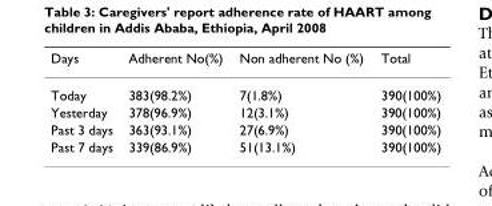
<table><thead><tr><td>Days</td><td>Adherent No(%)</td><td>Non adherent No (%)</td><td>Total</td></tr></thead><tbody><tr><td>Today</td><td>383(98.2%)</td><td>7(1.8%)</td><td>390(100%)</td></tr><tr><td>Yesterday</td><td>378(96.9%)</td><td>12(3.1%)</td><td>390(100%)</td></tr><tr><td>Past 3 days</td><td>363(93.1%)</td><td>27(6.9%)</td><td>390(100%)</td></tr><tr><td>Past 7 days</td><td>339(86.9%)</td><td>51(13.1%)</td><td>390(100%)</td></tr></tbody></table>